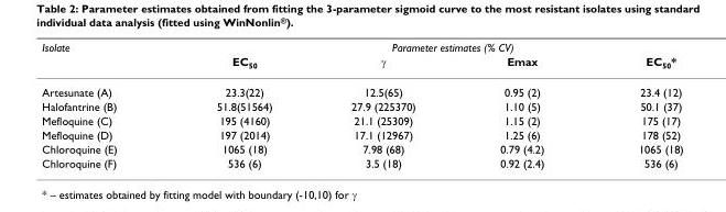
<table><thead><tr><td rowspan="2">Isolate</td><td colspan="4">Parameter estimates (% CV)</td></tr><tr><td>EC<sub>50</sub></td><td>γ</td><td>Emax</td><td>EC<sub>50</sub>*</td></tr></thead><tbody><tr><td>Artesunate (A)</td><td>23.3(22)</td><td>12.5(65)</td><td>0.95 (2)</td><td>23.4 (12)</td></tr><tr><td>Halofantrine (B)</td><td>51.8(51564)</td><td>27.9 (225370)</td><td>1.10 (5)</td><td>50.1 (37)</td></tr><tr><td>Mefloquine (C)</td><td>195 (4160)</td><td>21.1 (25309)</td><td>1.15 (2)</td><td>175 (17)</td></tr><tr><td>Mefloquine (D)</td><td>197 (2014)</td><td>17.1 (12967)</td><td>1.25 (6)</td><td>178 (52)</td></tr><tr><td>Chloroquine (E)</td><td>1065 (18)</td><td>7.98 (68)</td><td>0.79 (4.2)</td><td>1065 (18)</td></tr><tr><td>Chloroquine (F)</td><td>536 (6)</td><td>3.5 (18)</td><td>0.92 (2.4)</td><td>536 (6)</td></tr></tbody></table>